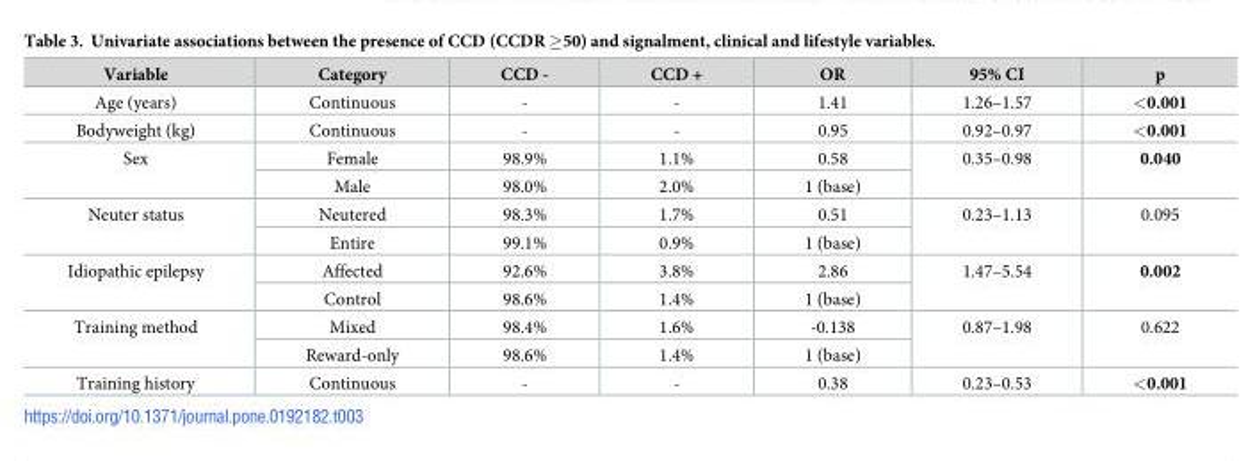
<table><thead><tr><td>Variable</td><td>Category</td><td>CCD -</td><td>CCD +</td><td>OR</td><td>95% CI</td><td>p</td></tr></thead><tbody><tr><td>Age (years)</td><td>Continuous</td><td>-</td><td>-</td><td>1.41</td><td>1.26–1.57</td><td>&lt;0.001</td></tr><tr><td>Bodyweight (kg)</td><td>Continuous</td><td>-</td><td>-</td><td>0.95</td><td>0.92–0.97</td><td>&lt;0.001</td></tr><tr><td rowspan="2">Sex</td><td>Female</td><td>98.9%</td><td>1.1%</td><td>0.58</td><td rowspan="2">0.35–0.98</td><td rowspan="2">0.040</td></tr><tr><td>Male</td><td>98.0%</td><td>2.0%</td><td>1 (base)</td></tr><tr><td rowspan="2">Neuter status</td><td>Neutered</td><td>98.3%</td><td>1.7%</td><td>0.51</td><td rowspan="2">0.23–1.13</td><td rowspan="2">0.095</td></tr><tr><td>Entire</td><td>99.1%</td><td>0.9%</td><td>1 (base)</td></tr><tr><td rowspan="2">Idiopathic epilepsy</td><td>Affected</td><td>92.6%</td><td>3.8%</td><td>2.86</td><td rowspan="2">1.47–5.54</td><td rowspan="2">0.002</td></tr><tr><td>Control</td><td>98.6%</td><td>1.4%</td><td>1 (base)</td></tr><tr><td rowspan="2">Training method</td><td>Mixed</td><td>98.4%</td><td>1.6%</td><td>-0.138</td><td rowspan="2">0.87–1.98</td><td rowspan="2">0.622</td></tr><tr><td>Reward-only</td><td>98.6%</td><td>1.4%</td><td>1 (base)</td></tr><tr><td>Training history</td><td>Continuous</td><td>-</td><td>-</td><td>0.38</td><td>0.23–0.53</td><td>&lt;0.001</td></tr></tbody></table>